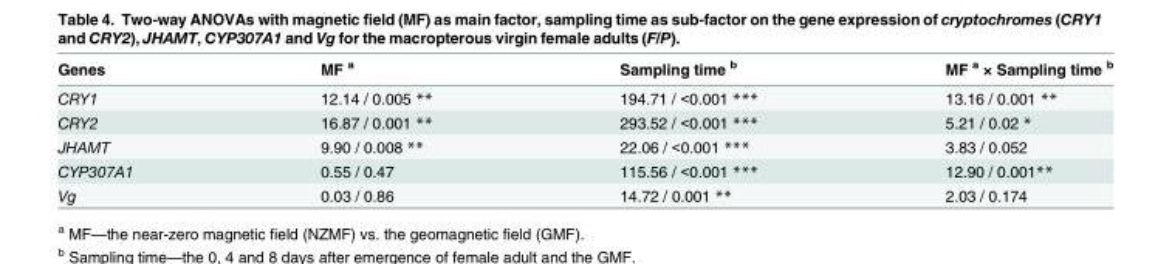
<table><thead><tr><td>Genes</td><td>MF <sup>a</sup></td><td>Sampling time <sup>b</sup></td><td>MF <sup>a</sup> × Sampling time <sup>b</sup></td></tr></thead><tbody><tr><td>CRY1</td><td>12.14 / 0.005 **</td><td>194.71 / &lt;0.001 ***</td><td>13.16 / 0.001 **</td></tr><tr><td>CRY2</td><td>16.87 / 0.001 **</td><td>293.52 / &lt;0.001 ***</td><td>5.21 / 0.02 *</td></tr><tr><td>JHAMT</td><td>9.90 / 0.008 **</td><td>22.06 / &lt;0.001 ***</td><td>3.83 / 0.052</td></tr><tr><td>CYP307A1</td><td>0.55 / 0.47</td><td>115.56 / &lt;0.001 ***</td><td>12.90 / 0.001**</td></tr><tr><td>Vg</td><td>0.03 / 0.86</td><td>14.72 / 0.001 **</td><td>2.03 / 0.174</td></tr></tbody></table>